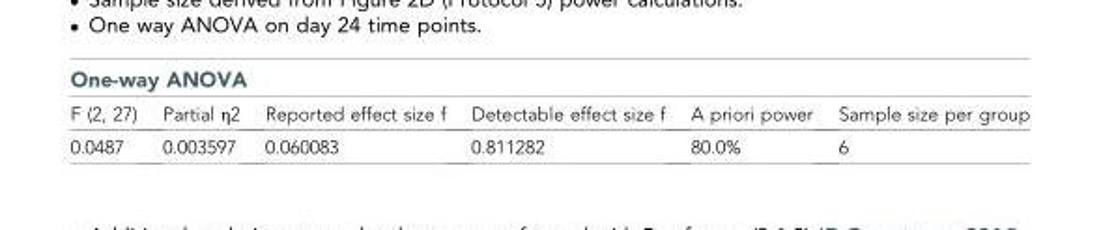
<table><thead><tr><td colspan="6">One-way ANOVA</td></tr><tr><td>F (2, 27)</td><td>Partial η2</td><td>Reported effect size f</td><td>Detectable effect size f</td><td>A priori power</td><td>Sample size per group</td></tr></thead><tbody><tr><td>0.0487</td><td>0.003597</td><td>0.060083</td><td>0.811282</td><td>80.0%</td><td>6</td></tr></tbody></table>